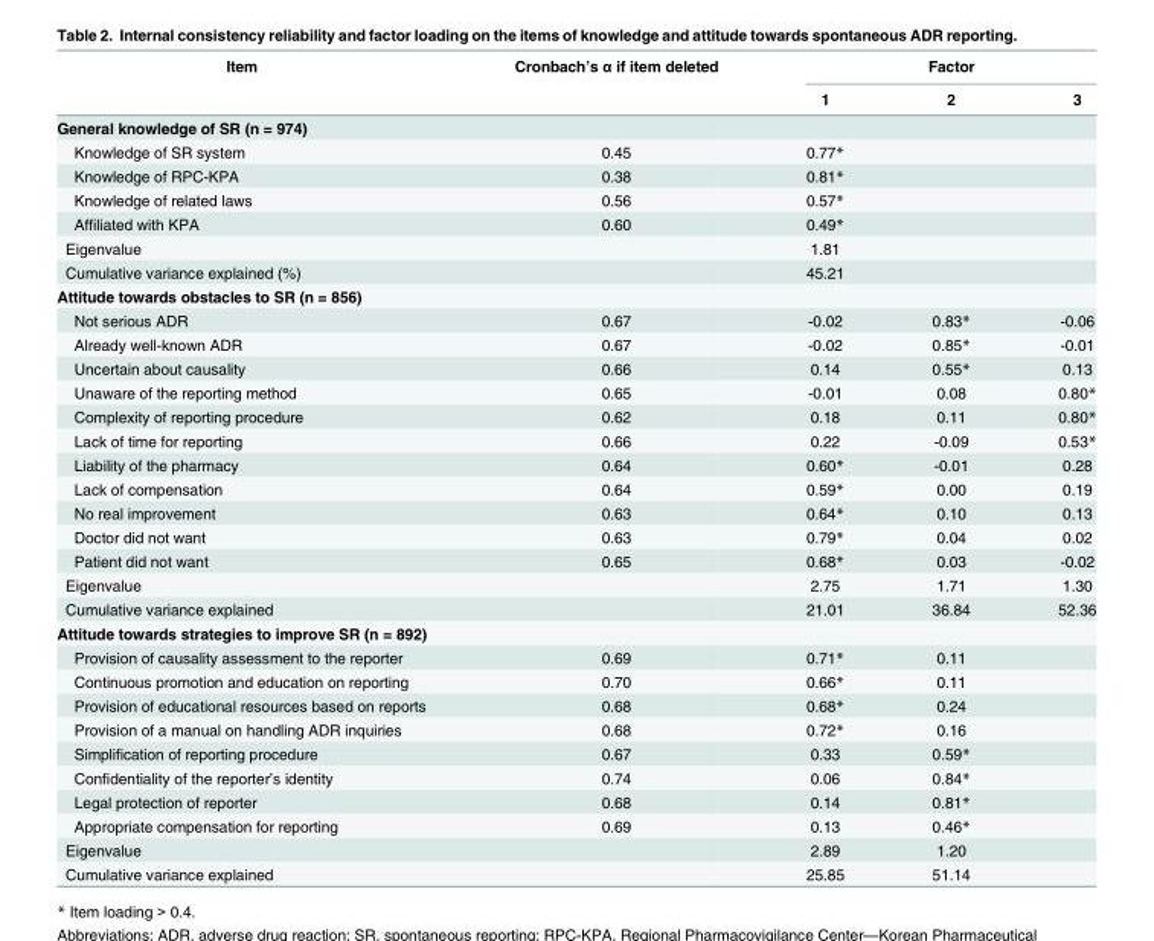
<table><thead><tr><td rowspan="2">Item</td><td rowspan="2">Cronbach’s α if item deleted</td><td colspan="3">Factor</td></tr><tr><td>1</td><td>2</td><td>3</td></tr></thead><tbody><tr><td colspan="5">General knowledge of SR (n = 974)</td></tr><tr><td>Knowledge of SR system</td><td>0.45</td><td>0.77*</td><td></td><td></td></tr><tr><td>Knowledge of RPC-KPA</td><td>0.38</td><td>0.81*</td><td></td><td></td></tr><tr><td>Knowledge of related laws</td><td>0.56</td><td>0.57*</td><td></td><td></td></tr><tr><td>Affiliated with KPA</td><td>0.60</td><td>0.49*</td><td></td><td></td></tr><tr><td>Eigenvalue</td><td></td><td>1.81</td><td></td><td></td></tr><tr><td>Cumulative variance explained (%)</td><td></td><td>45.21</td><td></td><td></td></tr><tr><td colspan="5">Attitude towards obstacles to SR (n = 856)</td></tr><tr><td>Not serious ADR</td><td>0.67</td><td>-0.02</td><td>0.83*</td><td>-0.06</td></tr><tr><td>Already well-known ADR</td><td>0.67</td><td>-0.02</td><td>0.85*</td><td>-0.01</td></tr><tr><td>Uncertain about causality</td><td>0.66</td><td>0.14</td><td>0.55*</td><td>0.13</td></tr><tr><td>Unaware of the reporting method</td><td>0.65</td><td>-0.01</td><td>0.08</td><td>0.80*</td></tr><tr><td>Complexity of reporting procedure</td><td>0.62</td><td>0.18</td><td>0.11</td><td>0.80*</td></tr><tr><td>Lack of time for reporting</td><td>0.66</td><td>0.22</td><td>-0.09</td><td>0.53*</td></tr><tr><td>Liability of the pharmacy</td><td>0.64</td><td>0.60*</td><td>-0.01</td><td>0.28</td></tr><tr><td>Lack of compensation</td><td>0.64</td><td>0.59*</td><td>0.00</td><td>0.19</td></tr><tr><td>No real improvement</td><td>0.63</td><td>0.64*</td><td>0.10</td><td>0.13</td></tr><tr><td>Doctor did not want</td><td>0.63</td><td>0.79*</td><td>0.04</td><td>0.02</td></tr><tr><td>Patient did not want</td><td>0.65</td><td>0.68*</td><td>0.03</td><td>-0.02</td></tr><tr><td>Eigenvalue</td><td></td><td>2.75</td><td>1.71</td><td>1.30</td></tr><tr><td>Cumulative variance explained</td><td></td><td>21.01</td><td>36.84</td><td>52.36</td></tr><tr><td colspan="5">Attitude towards strategies to improve SR (n = 892)</td></tr><tr><td>Provision of causality assessment to the reporter</td><td>0.69</td><td>0.71*</td><td>0.11</td><td></td></tr><tr><td>Continuous promotion and education on reporting</td><td>0.70</td><td>0.66*</td><td>0.11</td><td></td></tr><tr><td>Provision of educational resources based on reports</td><td>0.68</td><td>0.68*</td><td>0.24</td><td></td></tr><tr><td>Provision of a manual on handling ADR inquiries</td><td>0.68</td><td>0.72*</td><td>0.16</td><td></td></tr><tr><td>Simplification of reporting procedure</td><td>0.67</td><td>0.33</td><td>0.59*</td><td></td></tr><tr><td>Confidentiality of the reporter’s identity</td><td>0.74</td><td>0.06</td><td>0.84*</td><td></td></tr><tr><td>Legal protection of reporter</td><td>0.68</td><td>0.14</td><td>0.81*</td><td></td></tr><tr><td>Appropriate compensation for reporting</td><td>0.69</td><td>0.13</td><td>0.46*</td><td></td></tr><tr><td>Eigenvalue</td><td></td><td>2.89</td><td>1.20</td><td></td></tr><tr><td>Cumulative variance explained</td><td></td><td>25.85</td><td>51.14</td><td></td></tr></tbody></table>